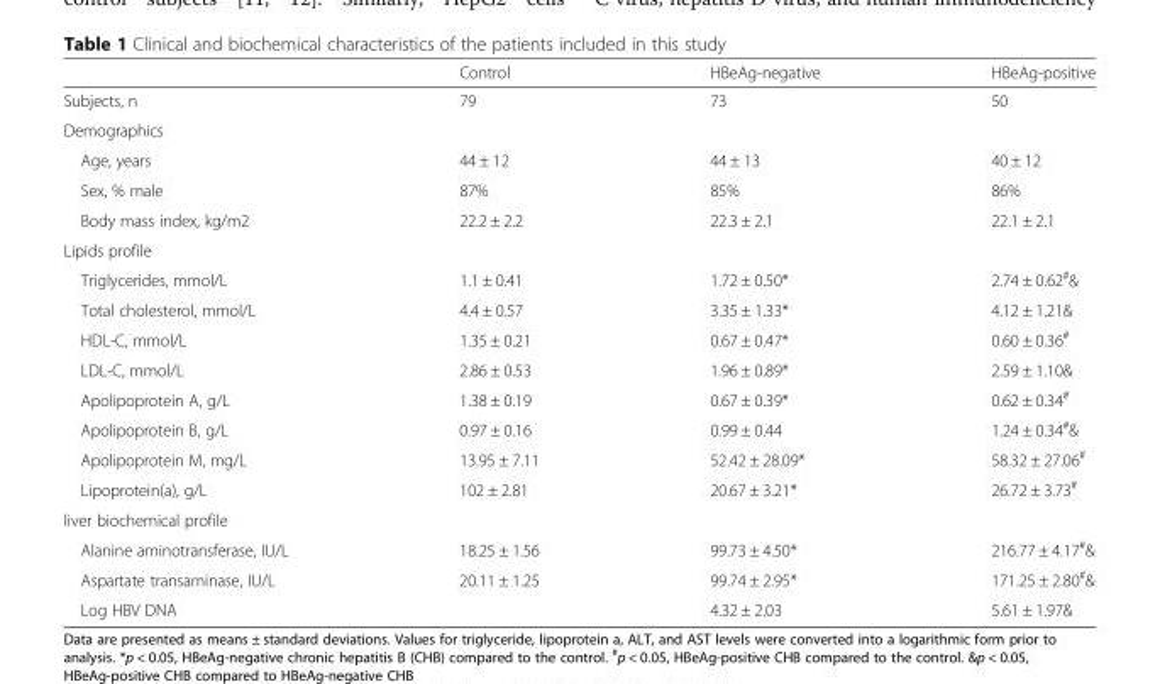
<table><thead><tr><td></td><td>Control</td><td>HBeAg-negative</td><td>HBeAg-positive</td></tr></thead><tbody><tr><td>Subjects, n</td><td>79</td><td>73</td><td>50</td></tr><tr><td colspan="4">Demographics</td></tr><tr><td>Age, years</td><td>44 ± 12</td><td>44 ± 13</td><td>40 ± 12</td></tr><tr><td>Sex, % male</td><td>87%</td><td>85%</td><td>86%</td></tr><tr><td>Body mass index, kg/m2</td><td>22.2 ± 2.2</td><td>22.3 ± 2.1</td><td>22.1 ± 2.1</td></tr><tr><td colspan="4">Lipids profile</td></tr><tr><td>Triglycerides, mmol/L</td><td>1.1 ± 0.41</td><td>1.72 ± 0.50*</td><td>2.74 ± 0.62<sup>#</sup>&amp;</td></tr><tr><td>Total cholesterol, mmol/L</td><td>4.4 ± 0.57</td><td>3.35 ± 1.33*</td><td>4.12 ± 1.21&amp;</td></tr><tr><td>HDL-C, mmol/L</td><td>1.35 ± 0.21</td><td>0.67 ± 0.47*</td><td>0.60 ± 0.36<sup>#</sup></td></tr><tr><td>LDL-C, mmol/L</td><td>2.86 ± 0.53</td><td>1.96 ± 0.89*</td><td>2.59 ± 1.10&amp;</td></tr><tr><td>Apolipoprotein A, g/L</td><td>1.38 ± 0.19</td><td>0.67 ± 0.39*</td><td>0.62 ± 0.34<sup>#</sup></td></tr><tr><td>Apolipoprotein B, g/L</td><td>0.97 ± 0.16</td><td>0.99 ± 0.44</td><td>1.24 ± 0.34<sup>#</sup>&amp;</td></tr><tr><td>Apolipoprotein M, mg/L</td><td>13.95 ± 7.11</td><td>52.42 ± 28.09*</td><td>58.32 ± 27.06<sup>#</sup></td></tr><tr><td>Lipoprotein(a), g/L</td><td>102 ± 2.81</td><td>20.67 ± 3.21*</td><td>26.72 ± 3.73<sup>#</sup></td></tr><tr><td colspan="4">liver biochemical profile</td></tr><tr><td>Alanine aminotransferase, IU/L</td><td>18.25 ± 1.56</td><td>99.73 ± 4.50*</td><td>216.77 ± 4.17<sup>#</sup>&amp;</td></tr><tr><td>Aspartate transaminase, IU/L</td><td>20.11 ± 1.25</td><td>99.74 ± 2.95*</td><td>171.25 ± 2.80<sup>#</sup>&amp;</td></tr><tr><td>Log HBV DNA</td><td></td><td>4.32 ± 2.03</td><td>5.61 ± 1.97&amp;</td></tr></tbody></table>